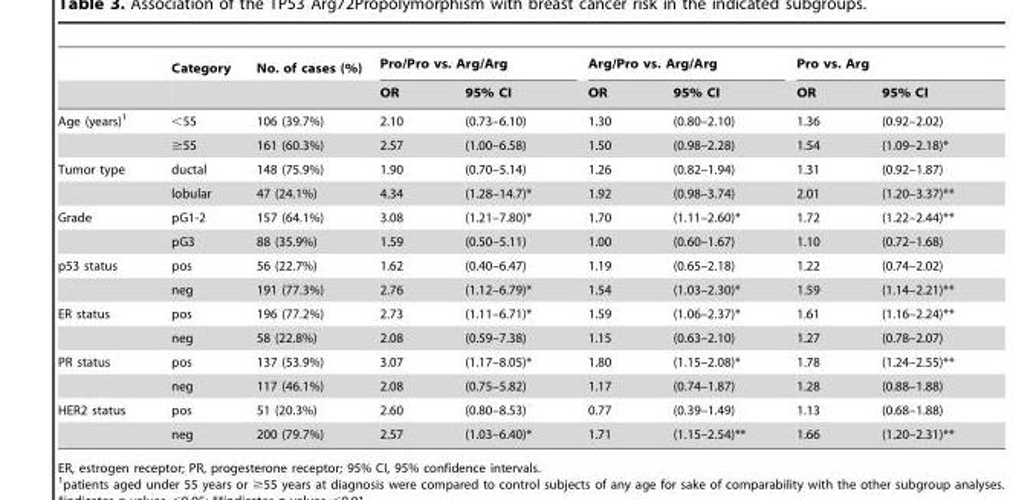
<table><thead><tr><td rowspan="2"></td><td rowspan="2">Category</td><td rowspan="2">No. of cases (%)</td><td colspan="2">Pro/Pro vs. Arg/Arg</td><td colspan="2">Arg/Pro vs. Arg/Arg</td><td colspan="2">Pro vs. Arg</td></tr><tr><td>OR</td><td>95% CI</td><td>OR</td><td>95% CI</td><td>OR</td><td>95% CI</td></tr></thead><tbody><tr><td rowspan="2">Age (years)<sup>1</sup></td><td>&lt;55</td><td>106 (39.7%)</td><td>2.10</td><td>(0.73–6.10)</td><td>1.30</td><td>(0.80–2.10)</td><td>1.36</td><td>(0.92–2.02)</td></tr><tr><td>≥55</td><td>161 (60.3%)</td><td>2.57</td><td>(1.00–6.58)</td><td>1.50</td><td>(0.98–2.28)</td><td>1.54</td><td>(1.09–2.18)*</td></tr><tr><td rowspan="2">Tumor type</td><td>ductal</td><td>148 (75.9%)</td><td>1.90</td><td>(0.70–5.14)</td><td>1.26</td><td>(0.82–1.94)</td><td>1.31</td><td>(0.92–1.87)</td></tr><tr><td>lobular</td><td>47 (24.1%)</td><td>4.34</td><td>(1.28–14.7)*</td><td>1.92</td><td>(0.98–3.74)</td><td>2.01</td><td>(1.20–3.37)**</td></tr><tr><td rowspan="2">Grade</td><td>pG1-2</td><td>157 (64.1%)</td><td>3.08</td><td>(1.21–7.80)*</td><td>1.70</td><td>(1.11–2.60)*</td><td>1.72</td><td>(1.22–2.44)**</td></tr><tr><td>pG3</td><td>88 (35.9%)</td><td>1.59</td><td>(0.50–5.11)</td><td>1.00</td><td>(0.60–1.67)</td><td>1.10</td><td>(0.72–1.68)</td></tr><tr><td rowspan="2">p53 status</td><td>pos</td><td>56 (22.7%)</td><td>1.62</td><td>(0.40–6.47)</td><td>1.19</td><td>(0.65–2.18)</td><td>1.22</td><td>(0.74–2.02)</td></tr><tr><td>neg</td><td>191 (77.3%)</td><td>2.76</td><td>(1.12–6.79)*</td><td>1.54</td><td>(1.03–2.30)*</td><td>1.59</td><td>(1.14–2.21)**</td></tr><tr><td rowspan="2">ER status</td><td>pos</td><td>196 (77.2%)</td><td>2.73</td><td>(1.11–6.71)*</td><td>1.59</td><td>(1.06–2.37)*</td><td>1.61</td><td>(1.16–2.24)**</td></tr><tr><td>neg</td><td>58 (22.8%)</td><td>2.08</td><td>(0.59–7.38)</td><td>1.15</td><td>(0.63–2.10)</td><td>1.27</td><td>(0.78–2.07)</td></tr><tr><td rowspan="2">PR status</td><td>pos</td><td>137 (53.9%)</td><td>3.07</td><td>(1.17–8.05)*</td><td>1.80</td><td>(1.15–2.08)*</td><td>1.78</td><td>(1.24–2.55)**</td></tr><tr><td>neg</td><td>117 (46.1%)</td><td>2.08</td><td>(0.75–5.82)</td><td>1.17</td><td>(0.74–1.87)</td><td>1.28</td><td>(0.88–1.88)</td></tr><tr><td rowspan="2">HER2 status</td><td>pos</td><td>51 (20.3%)</td><td>2.60</td><td>(0.80–8.53)</td><td>0.77</td><td>(0.39–1.49)</td><td>1.13</td><td>(0.68–1.88)</td></tr><tr><td>neg</td><td>200 (79.7%)</td><td>2.57</td><td>(1.03–6.40)*</td><td>1.71</td><td>(1.15–2.54)**</td><td>1.66</td><td>(1.20–2.31)**</td></tr></tbody></table>